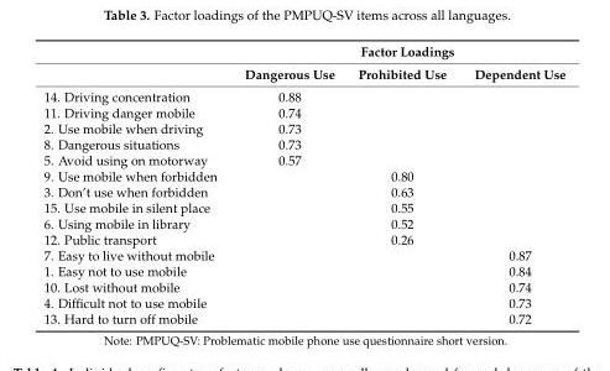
<table><thead><tr><td rowspan="2"></td><td colspan="3">Factor Loadings</td></tr><tr><td>Dangerous Use</td><td>Prohibited Use</td><td>Dependent Use</td></tr></thead><tbody><tr><td>14. Driving concentration</td><td>0.88</td><td></td><td></td></tr><tr><td>11. Driving danger mobile</td><td>0.74</td><td></td><td></td></tr><tr><td>2. Use mobile when driving</td><td>0.73</td><td></td><td></td></tr><tr><td>8. Dangerous situations</td><td>0.73</td><td></td><td></td></tr><tr><td>5. Avoid using on motorway</td><td>0.57</td><td></td><td></td></tr><tr><td>9. Use mobile when forbidden</td><td></td><td>0.80</td><td></td></tr><tr><td>3. Don’t use when forbidden</td><td></td><td>0.63</td><td></td></tr><tr><td>15. Use mobile in silent place</td><td></td><td>0.55</td><td></td></tr><tr><td>6. Using mobile in library</td><td></td><td>0.52</td><td></td></tr><tr><td>12. Public transport</td><td></td><td>0.26</td><td></td></tr><tr><td>7. Easy to live without mobile</td><td></td><td></td><td>0.87</td></tr><tr><td>1. Easy not to use mobile</td><td></td><td></td><td>0.84</td></tr><tr><td>10. Lost without mobile</td><td></td><td></td><td>0.74</td></tr><tr><td>4. Difficult not to use mobile</td><td></td><td></td><td>0.73</td></tr><tr><td>13. Hard to turn off mobile</td><td></td><td></td><td>0.72</td></tr></tbody></table>